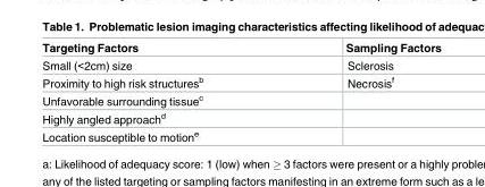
<table><thead><tr><td>Targeting Factors</td><td>Sampling Factors</td></tr></thead><tbody><tr><td>Small (&lt;2cm) size</td><td>Sclerosis</td></tr><tr><td>Proximity to high risk structures<sup>b</sup></td><td>Necrosis<sup>f</sup></td></tr><tr><td colspan="2">Unfavorable surrounding tissue<sup>c</sup></td></tr><tr><td colspan="2">Highly angled approach<sup>d</sup></td></tr><tr><td>Location susceptible to motion<sup>e</sup></td><td></td></tr></tbody></table>